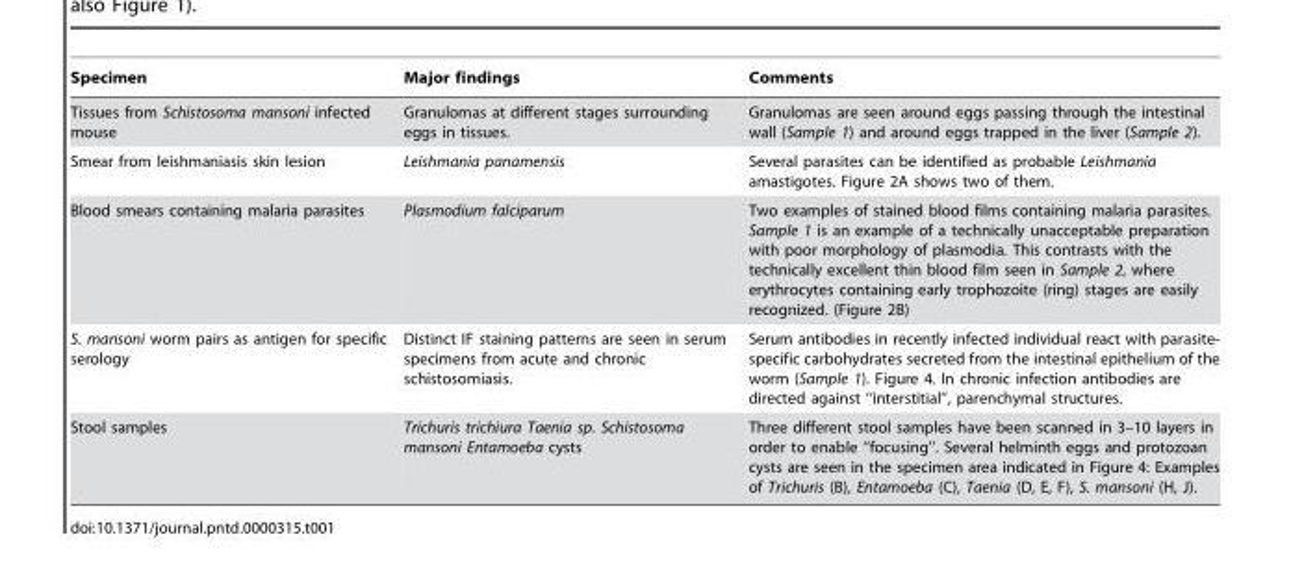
<table><thead><tr><td>Specimen</td><td>Major findings</td><td>Comments</td></tr></thead><tbody><tr><td>Tissues from Schistosoma mansoni infected mouse</td><td>Granulomas at different stages surrounding eggs in tissues.</td><td>Granulomas are seen around eggs passing through the intestinal wall (Sample 1) and around eggs trapped in the liver (Sample 2).</td></tr><tr><td>Smear from leishmaniasis skin lesion</td><td>Leishmania panamensis</td><td>Several parasites can be identified as probable Leishmania amastigotes. Figure 2A shows two of them.</td></tr><tr><td>Blood smears containing malaria parasites</td><td>Plasmodium falciparum</td><td>Two examples of stained blood films containing malaria parasites. Sample 1 is an example of a technically unacceptable preparation with poor morphology of plasmodia. This contrasts with the technically excellent thin blood film seen in Sample 2, where erythrocytes containing early trophozoite (ring) stages are easily recognized. (Figure 2B)</td></tr><tr><td>S. mansoni worm pairs as antigen for specific serology</td><td>Distinct IF staining patterns are seen in serum specimens from acute and chronic schistosomiasis.</td><td>Serum antibodies in recently infected individual react with parasite- specific carbohydrates secreted from the intestinal epithelium of the worm (Sample 1). Figure 4. In chronic infection antibodies are directed against ‘‘interstitial’’, parenchymal structures.</td></tr><tr><td>Stool samples</td><td>Trichuris trichiura Taenia sp. Schistosoma mansoni Entamoeba cysts</td><td>Three different stool samples have been scanned in 3–10 layers in order to enable ‘‘focusing’’. Several helminth eggs and protozoan cysts are seen in the specimen area indicated in Figure 4: Examples of Trichuris (B), Entamoeba (C), Taenia (D, E, F), S. mansoni (H, J).</td></tr></tbody></table>